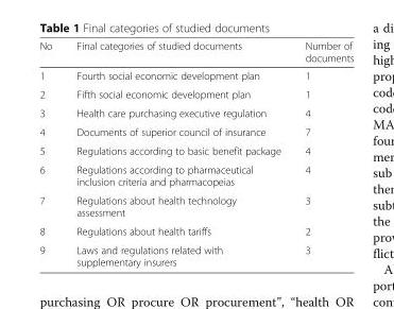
<table><thead><tr><td>No</td><td>Final categories of studied documents</td><td>Number of documents</td></tr></thead><tbody><tr><td>1</td><td>Fourth social economic development plan</td><td>1</td></tr><tr><td>2</td><td>Fifth social economic development plan</td><td>1</td></tr><tr><td>3</td><td>Health care purchasing executive regulation</td><td>4</td></tr><tr><td>4</td><td>Documents of superior council of insurance</td><td>7</td></tr><tr><td>5</td><td>Regulations according to basic benefit package</td><td>4</td></tr><tr><td>6</td><td>Regulations according to pharmaceutical inclusion criteria and pharmacopeias</td><td>4</td></tr><tr><td>7</td><td>Regulations about health technology assessment</td><td>3</td></tr><tr><td>8</td><td>Regulations about health tariffs</td><td>2</td></tr><tr><td>9</td><td>Laws and regulations related with supplementary insurers</td><td>3</td></tr></tbody></table>